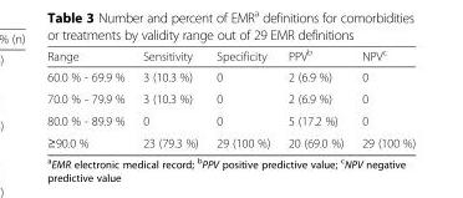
<table><thead><tr><td>Range</td><td>Sensitivity</td><td>Specificity</td><td>PPV<sup>b</sup></td><td>NPV<sup>c</sup></td></tr></thead><tbody><tr><td>60.0 % - 69.9 %</td><td>3 (10.3 %)</td><td>0</td><td>2 (6.9 %)</td><td>0</td></tr><tr><td>70.0 % - 79.9 %</td><td>3 (10.3 %)</td><td>0</td><td>2 (6.9 %)</td><td>0</td></tr><tr><td>80.0 % - 89.9 %</td><td>0</td><td>0</td><td>5 (17.2 %)</td><td>0</td></tr><tr><td>≥90.0 %</td><td>23 (79.3 %)</td><td>29 (100 %)</td><td>20 (69.0 %)</td><td>29 (100 %)</td></tr></tbody></table>